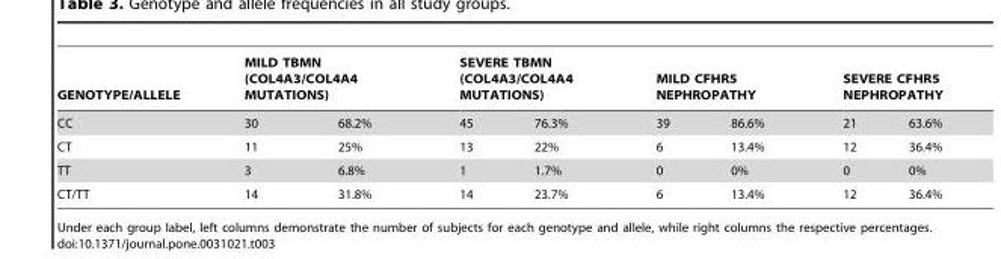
<table><thead><tr><td rowspan="2">GENOTYPE/ALLELE CC</td><td colspan="2">MILD TBMN (COL4A3/COL4A4 MUTATIONS)</td><td colspan="2">SEVERE TBMN (COL4A3/COL4A4 MUTATIONS)</td><td colspan="2">MILD CFHR5 NEPHROPATHY</td><td colspan="2">SEVERE CFHR5 NEPHROPATHY</td></tr><tr><td>30</td><td>68.2%</td><td>45</td><td>76.3%</td><td>39</td><td>86.6%</td><td>21</td><td>63.6%</td></tr></thead><tbody><tr><td>CT</td><td>11</td><td>25%</td><td>13</td><td>22%</td><td>6</td><td>13.4%</td><td>12</td><td>36.4%</td></tr><tr><td>TT</td><td>3</td><td>6.8%</td><td>1</td><td>1.7%</td><td>0</td><td>0%</td><td>0</td><td>0%</td></tr><tr><td>CT/TT</td><td>14</td><td>31.8%</td><td>14</td><td>23.7%</td><td>6</td><td>13.4%</td><td>12</td><td>36.4%</td></tr></tbody></table>